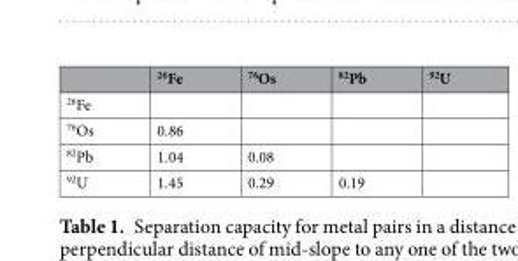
<table><thead><tr><td></td><td><sup>26</sup>Fe</td><td><sup>76</sup>Os</td><td><sup>82</sup>Pb</td><td><sup>92</sup>U</td></tr></thead><tbody><tr><td colspan="5"><sup>26</sup>Fe</td></tr><tr><td><sup>76</sup>Os</td><td>0.86</td><td></td><td></td><td></td></tr><tr><td><sup>82</sup>Pb</td><td>1.04</td><td>0.08</td><td></td><td></td></tr><tr><td><sup>92</sup>U</td><td>1.45</td><td>0.29</td><td>0.19</td><td></td></tr></tbody></table>